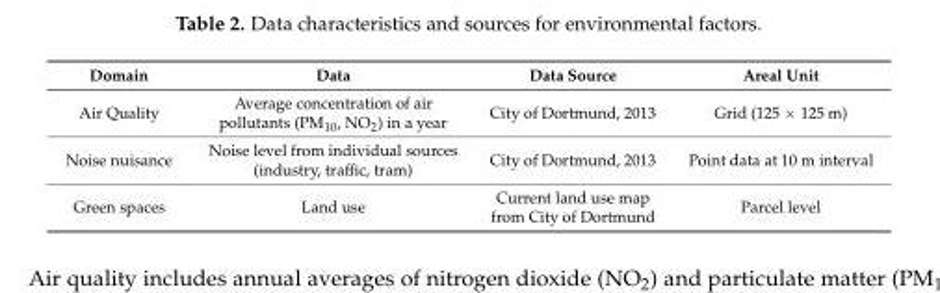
<table><thead><tr><td>Domain</td><td>Data</td><td>Data Source</td><td>Areal Unit</td></tr></thead><tbody><tr><td>Air Quality</td><td>Average concentration of air pollutants (PM<sub>10</sub>, NO<sub>2</sub>) in a year</td><td>City of Dortmund, 2013</td><td>Grid (125 ˆ 125 m)</td></tr><tr><td>Noise nuisance</td><td>Noise level from individual sources (industry, traffic, tram)</td><td>City of Dortmund, 2013</td><td>Point data at 10 m interval</td></tr><tr><td>Green spaces</td><td>Land use</td><td>Current land use map from City of Dortmund</td><td>Parcel level</td></tr></tbody></table>